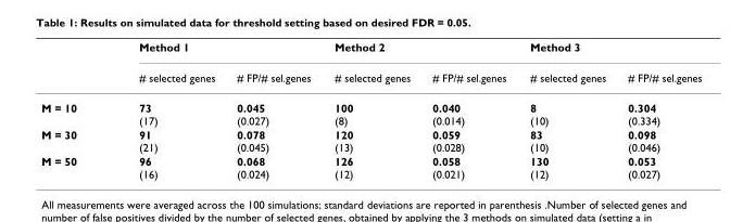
<table><thead><tr><td rowspan="2"></td><td colspan="2">Method 1</td><td colspan="2">Method 2</td><td colspan="2">Method 3</td></tr><tr><td># selected genes</td><td># FP/# sel.genes</td><td># selected genes</td><td># FP/# sel.genes</td><td># selected genes</td><td># FP/# sel.genes</td></tr></thead><tbody><tr><td>M = 10</td><td>73 (17)</td><td>0.045 (0.027)</td><td>100 (8)</td><td>0.040 (0.014)</td><td>8 (10)</td><td>0.304 (0.334)</td></tr><tr><td>M = 30</td><td>91 (21)</td><td>0.078 (0.045)</td><td>120 (13)</td><td>0.059 (0.028)</td><td>83 (10)</td><td>0.098 (0.046)</td></tr><tr><td>M = 50</td><td>96 (16)</td><td>0.068 (0.024)</td><td>126 (12)</td><td>0.058 (0.021)</td><td>130 (12)</td><td>0.053 (0.027)</td></tr></tbody></table>